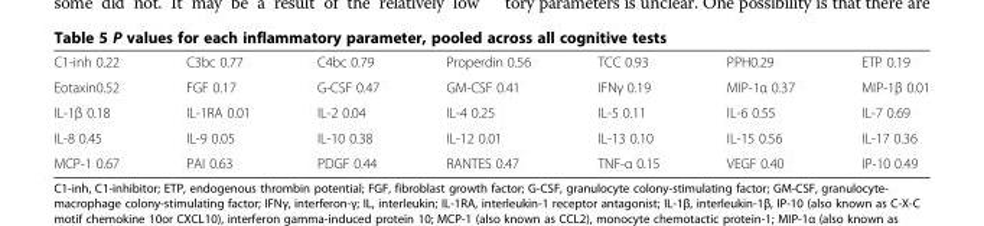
<table><tbody><tr><td>C1-inh 0.22</td><td>C3bc 0.77</td><td>C4bc 0.79</td><td>Properdin 0.56</td><td>TCC 0.93</td><td>PPH0.29</td><td>ETP 0.19</td></tr><tr><td>Eotaxin0.52</td><td>FGF 0.17</td><td>G-CSF 0.47</td><td>GM-CSF 0.41</td><td>IFNγ 0.19</td><td>MIP-1α 0.37</td><td>MIP-1β 0.01</td></tr><tr><td>IL-1β 0.18</td><td>IL-1RA 0.01</td><td>IL-2 0.04</td><td>IL-4 0.25</td><td>IL-5 0.11</td><td>IL-6 0.55</td><td>IL-7 0.69</td></tr><tr><td>IL-8 0.45</td><td>IL-9 0.05</td><td>IL-10 0.38</td><td>IL-12 0.01</td><td>IL-13 0.10</td><td>IL-15 0.56</td><td>IL-17 0.36</td></tr><tr><td>MCP-1 0.67</td><td>PAI 0.63</td><td>PDGF 0.44</td><td>RANTES 0.47</td><td>TNF-α 0.15</td><td>VEGF 0.40</td><td>IP-10 0.49</td></tr></tbody></table>